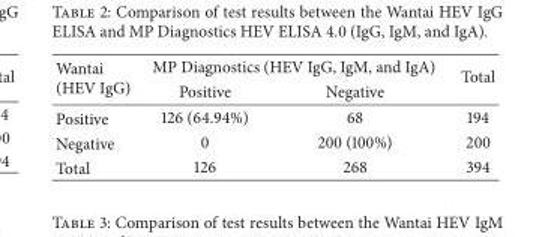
<table><thead><tr><td rowspan="2">Wantai (HEV IgG)</td><td colspan="2">MP Diagnostics (HEV IgG, IgM, and IgA)</td><td rowspan="2">Total</td></tr><tr><td>Positive</td><td>Negative</td></tr></thead><tbody><tr><td>Positive</td><td>126 (64.94%)</td><td>68</td><td>194</td></tr><tr><td>Negative</td><td>0</td><td>200 (100%)</td><td>200</td></tr><tr><td>Total</td><td>126</td><td>268</td><td>394</td></tr></tbody></table>